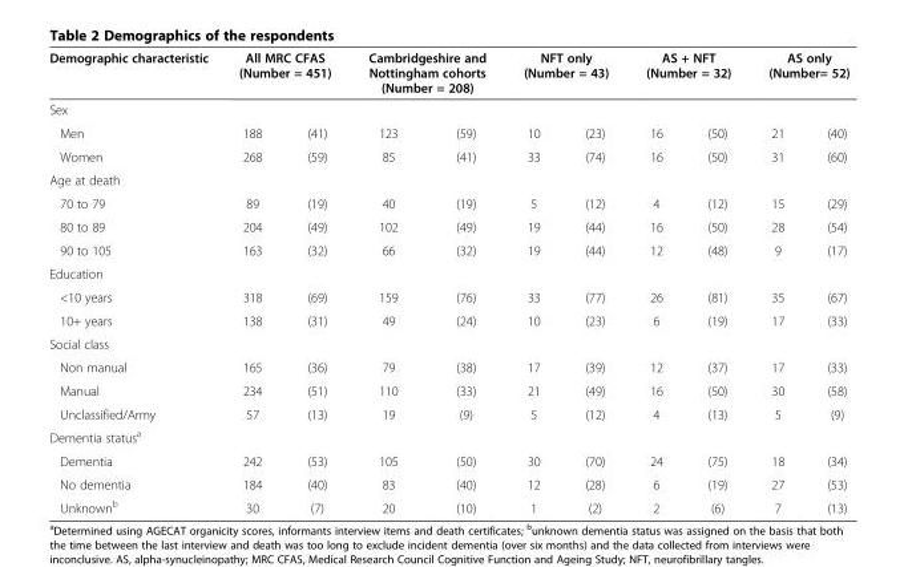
<table><thead><tr><td>Demographic characteristic</td><td colspan="2">All MRC CFAS (Number = 451)</td><td colspan="2">Cambridgeshire and Nottingham cohorts (Number = 208)</td><td colspan="2">NFT only (Number = 43)</td><td colspan="2">AS + NFT (Number = 32)</td><td colspan="2">AS only (Number= 52)</td></tr><tr><td colspan="11">Sex</td></tr><tr><td>Men</td><td>188</td><td>(41)</td><td>123</td><td>(59)</td><td>10</td><td>(23)</td><td>16</td><td>(50)</td><td>21</td><td>(40)</td></tr></thead><tbody><tr><td>Women</td><td>268</td><td>(59)</td><td>85</td><td>(41)</td><td>33</td><td>(74)</td><td>16</td><td>(50)</td><td>31</td><td>(60)</td></tr><tr><td colspan="11">Age at death</td></tr><tr><td>70 to 79</td><td>89</td><td>(19)</td><td>40</td><td>(19)</td><td>5</td><td>(12)</td><td>4</td><td>(12)</td><td>15</td><td>(29)</td></tr><tr><td>80 to 89</td><td>204</td><td>(49)</td><td>102</td><td>(49)</td><td>19</td><td>(44)</td><td>16</td><td>(50)</td><td>28</td><td>(54)</td></tr><tr><td>90 to 105</td><td>163</td><td>(32)</td><td>66</td><td>(32)</td><td>19</td><td>(44)</td><td>12</td><td>(48)</td><td>9</td><td>(17)</td></tr><tr><td colspan="11">Education</td></tr><tr><td>&lt;10 years</td><td>318</td><td>(69)</td><td>159</td><td>(76)</td><td>33</td><td>(77)</td><td>26</td><td>(81)</td><td>35</td><td>(67)</td></tr><tr><td>10+ years</td><td>138</td><td>(31)</td><td>49</td><td>(24)</td><td>10</td><td>(23)</td><td>6</td><td>(19)</td><td>17</td><td>(33)</td></tr><tr><td colspan="11">Social class</td></tr><tr><td>Non manual</td><td>165</td><td>(36)</td><td>79</td><td>(38)</td><td>17</td><td>(39)</td><td>12</td><td>(37)</td><td>17</td><td>(33)</td></tr><tr><td>Manual</td><td>234</td><td>(51)</td><td>110</td><td>(33)</td><td>21</td><td>(49)</td><td>16</td><td>(50)</td><td>30</td><td>(58)</td></tr><tr><td>Unclassified/Army</td><td>57</td><td>(13)</td><td>19</td><td>(9)</td><td>5</td><td>(12)</td><td>4</td><td>(13)</td><td>5</td><td>(9)</td></tr><tr><td colspan="11">Dementia status<sup>a</sup></td></tr><tr><td>Dementia</td><td>242</td><td>(53)</td><td>105</td><td>(50)</td><td>30</td><td>(70)</td><td>24</td><td>(75)</td><td>18</td><td>(34)</td></tr><tr><td>No dementia</td><td>184</td><td>(40)</td><td>83</td><td>(40)</td><td>12</td><td>(28)</td><td>6</td><td>(19)</td><td>27</td><td>(53)</td></tr><tr><td>Unknown<sup>b</sup></td><td>30</td><td>(7)</td><td>20</td><td>(10)</td><td>1</td><td>(2)</td><td>2</td><td>(6)</td><td>7</td><td>(13)</td></tr></tbody></table>